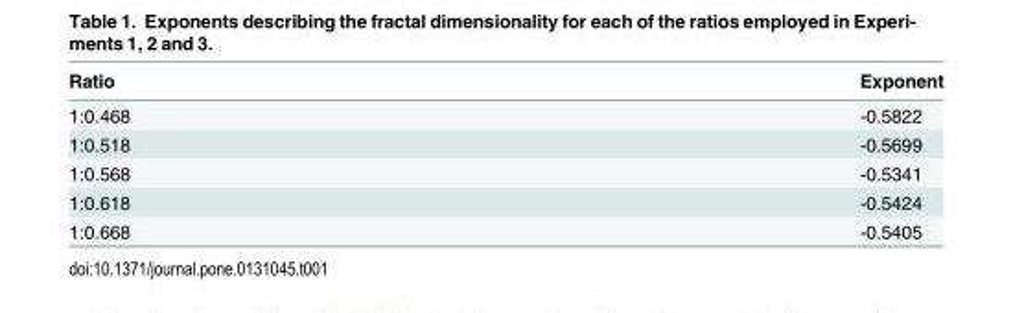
<table><thead><tr><td>Ratio</td><td>Exponent</td></tr></thead><tbody><tr><td>1:0.468</td><td>-0.5822</td></tr><tr><td>1:0.518</td><td>-0.5699</td></tr><tr><td>1:0.568</td><td>-0.5341</td></tr><tr><td>1:0.618</td><td>-0.5424</td></tr><tr><td>1:0.668</td><td>-0.5405</td></tr></tbody></table>